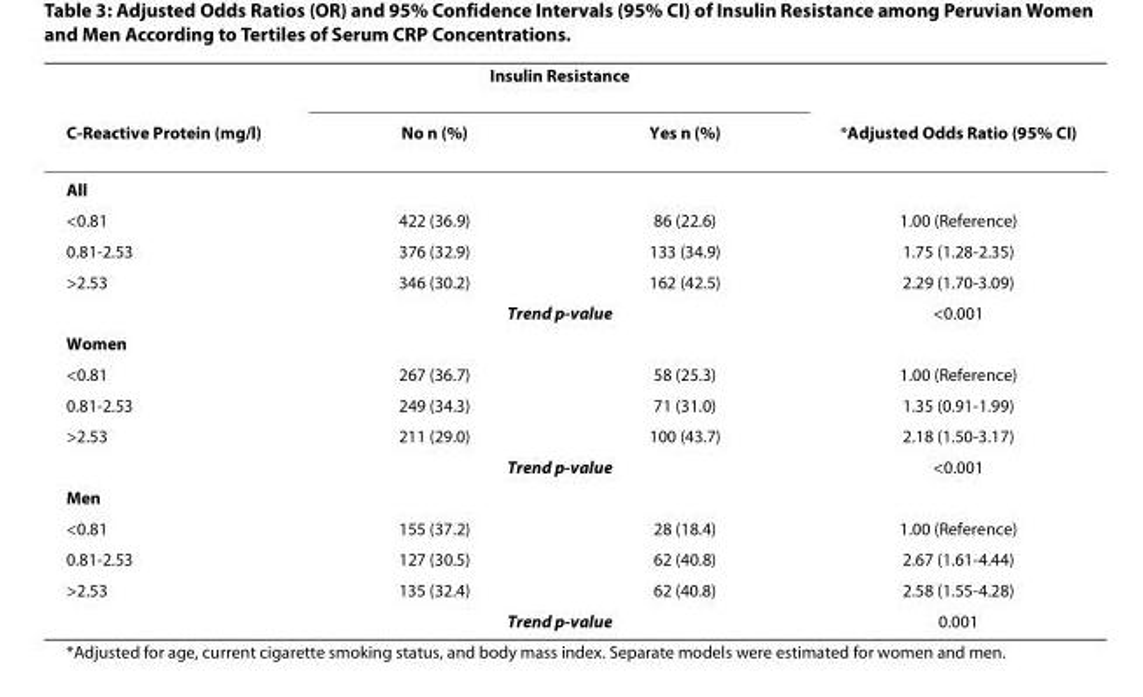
<table><thead><tr><td rowspan="2">C-Reactive Protein (mg/l)</td><td colspan="2">Insulin Resistance</td><td rowspan="2">*Adjusted Odds Ratio (95% CI)</td></tr><tr><td>No n (%)</td><td>Yes n (%)</td></tr></thead><tbody><tr><td colspan="4">All</td></tr><tr><td>&lt;0.81</td><td>422 (36.9)</td><td>86 (22.6)</td><td>1.00 (Reference)</td></tr><tr><td>0.81-2.53</td><td>376 (32.9)</td><td>133 (34.9)</td><td>1.75 (1.28-2.35)</td></tr><tr><td rowspan="2">&gt;2.53</td><td>346 (30.2)</td><td>162 (42.5)</td><td>2.29 (1.70-3.09)</td></tr><tr><td colspan="2">Trend p-value</td><td>&lt;0.001</td></tr><tr><td colspan="4">Women</td></tr><tr><td>&lt;0.81</td><td>267 (36.7)</td><td>58 (25.3)</td><td>1.00 (Reference)</td></tr><tr><td>0.81-2.53</td><td>249 (34.3)</td><td>71 (31.0)</td><td>1.35 (0.91-1.99)</td></tr><tr><td rowspan="2">&gt;2.53</td><td>211 (29.0)</td><td>100 (43.7)</td><td>2.18 (1.50-3.17)</td></tr><tr><td colspan="2">Trend p-value</td><td>&lt;0.001</td></tr><tr><td colspan="4">Men</td></tr><tr><td>&lt;0.81</td><td>155 (37.2)</td><td>28 (18.4)</td><td>1.00 (Reference)</td></tr><tr><td>0.81-2.53</td><td>127 (30.5)</td><td>62 (40.8)</td><td>2.67 (1.61-4.44)</td></tr><tr><td rowspan="2">&gt;2.53</td><td>135 (32.4)</td><td>62 (40.8)</td><td>2.58 (1.55-4.28)</td></tr><tr><td colspan="2">Trend p-value</td><td>0.001</td></tr></tbody></table>